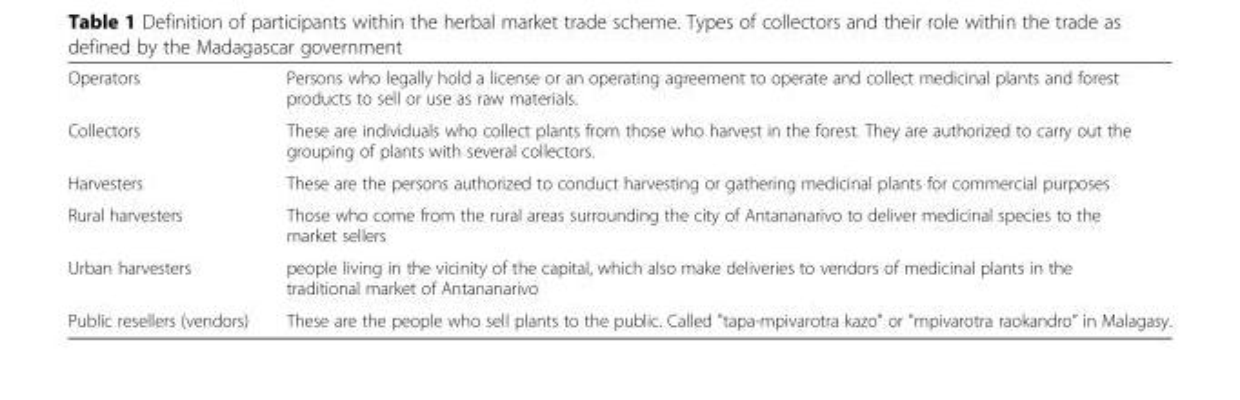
<table><tbody><tr><td>Operators</td><td>Persons who legally hold a license or an operating agreement to operate and collect medicinal plants and forest products to sell or use as raw materials.</td></tr><tr><td>Collectors</td><td>These are individuals who collect plants from those who harvest in the forest. They are authorized to carry out the grouping of plants with several collectors.</td></tr><tr><td>Harvesters</td><td>These are the persons authorized to conduct harvesting or gathering medicinal plants for commercial purposes</td></tr><tr><td>Rural harvesters</td><td>Those who come from the rural areas surrounding the city of Antananarivo to deliver medicinal species to the market sellers</td></tr><tr><td>Urban harvesters</td><td>people living in the vicinity of the capital, which also make deliveries to vendors of medicinal plants in the traditional market of Antananarivo</td></tr><tr><td>Public resellers (vendors)</td><td>These are the people who sell plants to the public. Called &quot;tapa-mpivarotra kazo&quot; or &quot;mpivarotra raokandro” in Malagasy.</td></tr></tbody></table>